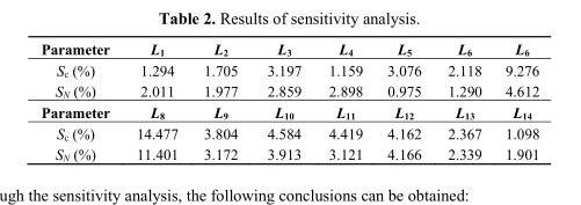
<table><thead><tr><td>Parameter</td><td>L<sub>1</sub></td><td>L<sub>2</sub></td><td>L<sub>3</sub></td><td>L<sub>4</sub></td><td>L<sub>5</sub></td><td>L<sub>6</sub></td><td>L<sub>6</sub></td></tr></thead><tbody><tr><td>S<sub>c</sub> (%)</td><td>1.294</td><td>1.705</td><td>3.197</td><td>1.159</td><td>3.076</td><td>2.118</td><td>9.276</td></tr><tr><td>S<sub>N</sub> (%)</td><td>2.011</td><td>1.977</td><td>2.859</td><td>2.898</td><td>0.975</td><td>1.290</td><td>4.612</td></tr><tr><td>Parameter</td><td>L<sub>8</sub></td><td>L<sub>9</sub></td><td>L<sub>10</sub></td><td>L<sub>11</sub></td><td>L<sub>12</sub></td><td>L<sub>13</sub></td><td>L<sub>14</sub></td></tr><tr><td>S<sub>c</sub> (%)</td><td>14.477</td><td>3.804</td><td>4.584</td><td>4.419</td><td>4.162</td><td>2.367</td><td>1.098</td></tr><tr><td>S<sub>N</sub> (%)</td><td>11.401</td><td>3.172</td><td>3.913</td><td>3.121</td><td>4.166</td><td>2.339</td><td>1.901</td></tr></tbody></table>